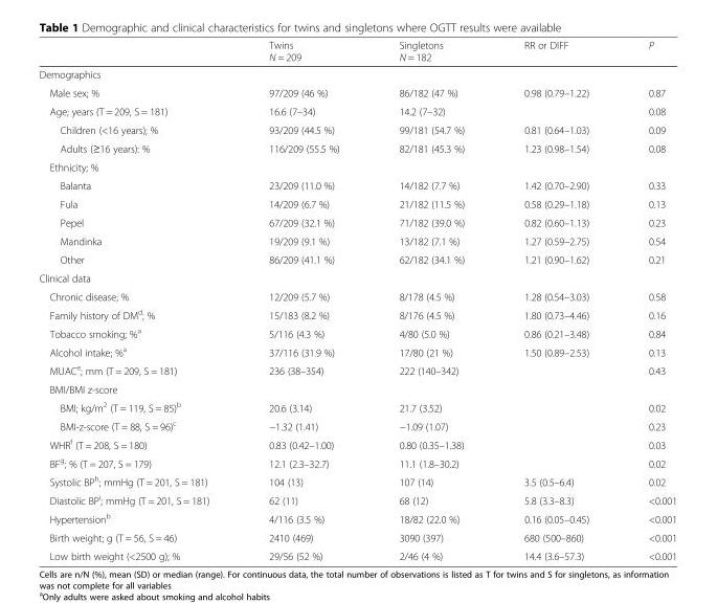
<table><thead><tr><td></td><td>Twins N = 209</td><td>Singletons N = 182</td><td>RR or DIFF</td><td>P</td></tr></thead><tbody><tr><td colspan="5">Demographics</td></tr><tr><td>Male sex; %</td><td>97/209 (46 %)</td><td>86/182 (47 %)</td><td>0.98 (0.79–1.22)</td><td>0.87</td></tr><tr><td>Age; years (T = 209, S = 181)</td><td>16.6 (7–34)</td><td>14.2 (7–32)</td><td></td><td>0.08</td></tr><tr><td>Children (&lt;16 years); %</td><td>93/209 (44.5 %)</td><td>99/181 (54.7 %)</td><td>0.81 (0.64–1.03)</td><td>0.09</td></tr><tr><td>Adults (≥16 years): %</td><td>116/209 (55.5 %)</td><td>82/181 (45.3 %)</td><td>1.23 (0.98–1.54)</td><td>0.08</td></tr><tr><td colspan="5">Ethnicity; %</td></tr><tr><td>Balanta</td><td>23/209 (11.0 %)</td><td>14/182 (7.7 %)</td><td>1.42 (0.70–2.90)</td><td>0.33</td></tr><tr><td>Fula</td><td>14/209 (6.7 %)</td><td>21/182 (11.5 %)</td><td>0.58 (0.29–1.18)</td><td>0.13</td></tr><tr><td>Pepel</td><td>67/209 (32.1 %)</td><td>71/182 (39.0 %)</td><td>0.82 (0.60–1.13)</td><td>0.23</td></tr><tr><td>Mandinka</td><td>19/209 (9.1 %)</td><td>13/182 (7.1 %)</td><td>1.27 (0.59–2.75)</td><td>0.54</td></tr><tr><td>Other</td><td>86/209 (41.1 %)</td><td>62/182 (34.1 %)</td><td>1.21 (0.90–1.62)</td><td>0.21</td></tr><tr><td colspan="5">Clinical data</td></tr><tr><td>Chronic disease; %</td><td>12/209 (5.7 %)</td><td>8/178 (4.5 %)</td><td>1.28 (0.54–3.03)</td><td>0.58</td></tr><tr><td>Family history of DM<sup>d</sup>; %</td><td>15/183 (8.2 %)</td><td>8/176 (4.5 %)</td><td>1.80 (0.73–4.46)</td><td>0.16</td></tr><tr><td>Tobacco smoking; %<sup>a</sup></td><td>5/116 (4.3 %)</td><td>4/80 (5.0 %)</td><td>0.86 (0.21–3.48)</td><td>0.84</td></tr><tr><td>Alcohol intake; %<sup>a</sup></td><td>37/116 (31.9 %)</td><td>17/80 (21 %)</td><td>1.50 (0.89–2.53)</td><td>0.13</td></tr><tr><td>MUAC<sup>e</sup>; mm (T = 209, S = 181)</td><td>236 (38–354)</td><td>222 (140–342)</td><td></td><td>0.43</td></tr><tr><td colspan="5">BMI/BMI z-score</td></tr><tr><td>BMI; kg/m<sup>2</sup> (T = 119, S = 85)<sup>b</sup></td><td>20.6 (3.14)</td><td>21.7 (3.52)</td><td></td><td>0.02</td></tr><tr><td>BMI-z-score (T = 88, S = 96)<sup>c</sup></td><td>−1.32 (1.41)</td><td>−1.09 (1.07)</td><td></td><td>0.23</td></tr><tr><td>WHR<sup>f</sup> (T = 208, S = 180)</td><td>0.83 (0.42–1.00)</td><td>0.80 (0.35–1.38)</td><td></td><td>0.03</td></tr><tr><td>BF<sup>g</sup>; % (T = 207, S = 179)</td><td>12.1 (2.3–32.7)</td><td>11.1 (1.8–30.2)</td><td></td><td>0.02</td></tr><tr><td>Systolic BP<sup>h</sup>; mmHg (T = 201, S = 181)</td><td>104 (13)</td><td>107 (14)</td><td>3.5 (0.5–6.4)</td><td>0.02</td></tr><tr><td>Diastolic BP<sup>i</sup>; mmHg (T = 201, S = 181)</td><td>62 (11)</td><td>68 (12)</td><td>5.8 (3.3–8.3)</td><td>&lt;0.001</td></tr><tr><td>Hypertension<sup>b</sup></td><td>4/116 (3.5 %)</td><td>18/82 (22.0 %)</td><td>0.16 (0.05–0.45)</td><td>&lt;0.001</td></tr><tr><td>Birth weight; g (T = 56, S = 46)</td><td>2410 (469)</td><td>3090 (397)</td><td>680 (500–860)</td><td>&lt;0.001</td></tr><tr><td>Low birth weight (&lt;2500 g); %</td><td>29/56 (52 %)</td><td>2/46 (4 %)</td><td>14.4 (3.6–57.3)</td><td>&lt;0.001</td></tr></tbody></table>